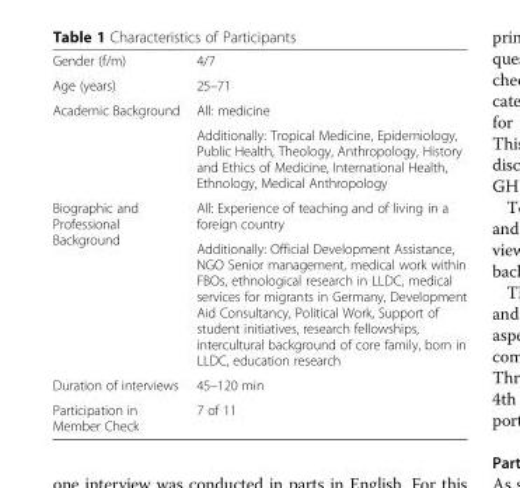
<table><tbody><tr><td>Gender (f/m)</td><td>4/7</td></tr><tr><td>Age (years)</td><td>25–71</td></tr><tr><td rowspan="2">Academic Background</td><td>All: medicine</td></tr><tr><td>Additionally: Tropical Medicine, Epidemiology, Public Health, Theology, Anthropology, History and Ethics of Medicine, International Health, Ethnology, Medical Anthropology</td></tr><tr><td rowspan="2">Biographic and Professional Background</td><td>All: Experience of teaching and of living in a foreign country</td></tr><tr><td>Additionally: Official Development Assistance, NGO Senior management, medical work within FBOs, ethnological research in LLDC, medical services for migrants in Germany, Development Aid Consultancy, Political Work, Support of student initiatives, research fellowships, intercultural background of core family, born in LLDC, education research</td></tr><tr><td>Duration of interviews</td><td>45–120 min</td></tr><tr><td>Participation in Member Check</td><td>7 of 11</td></tr></tbody></table>